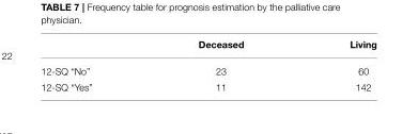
<table><thead><tr><td></td><td>Deceased</td><td>Living</td></tr></thead><tbody><tr><td>12-SQ “No”</td><td>23</td><td>60</td></tr><tr><td>12-SQ “Yes”</td><td>11</td><td>142</td></tr></tbody></table>